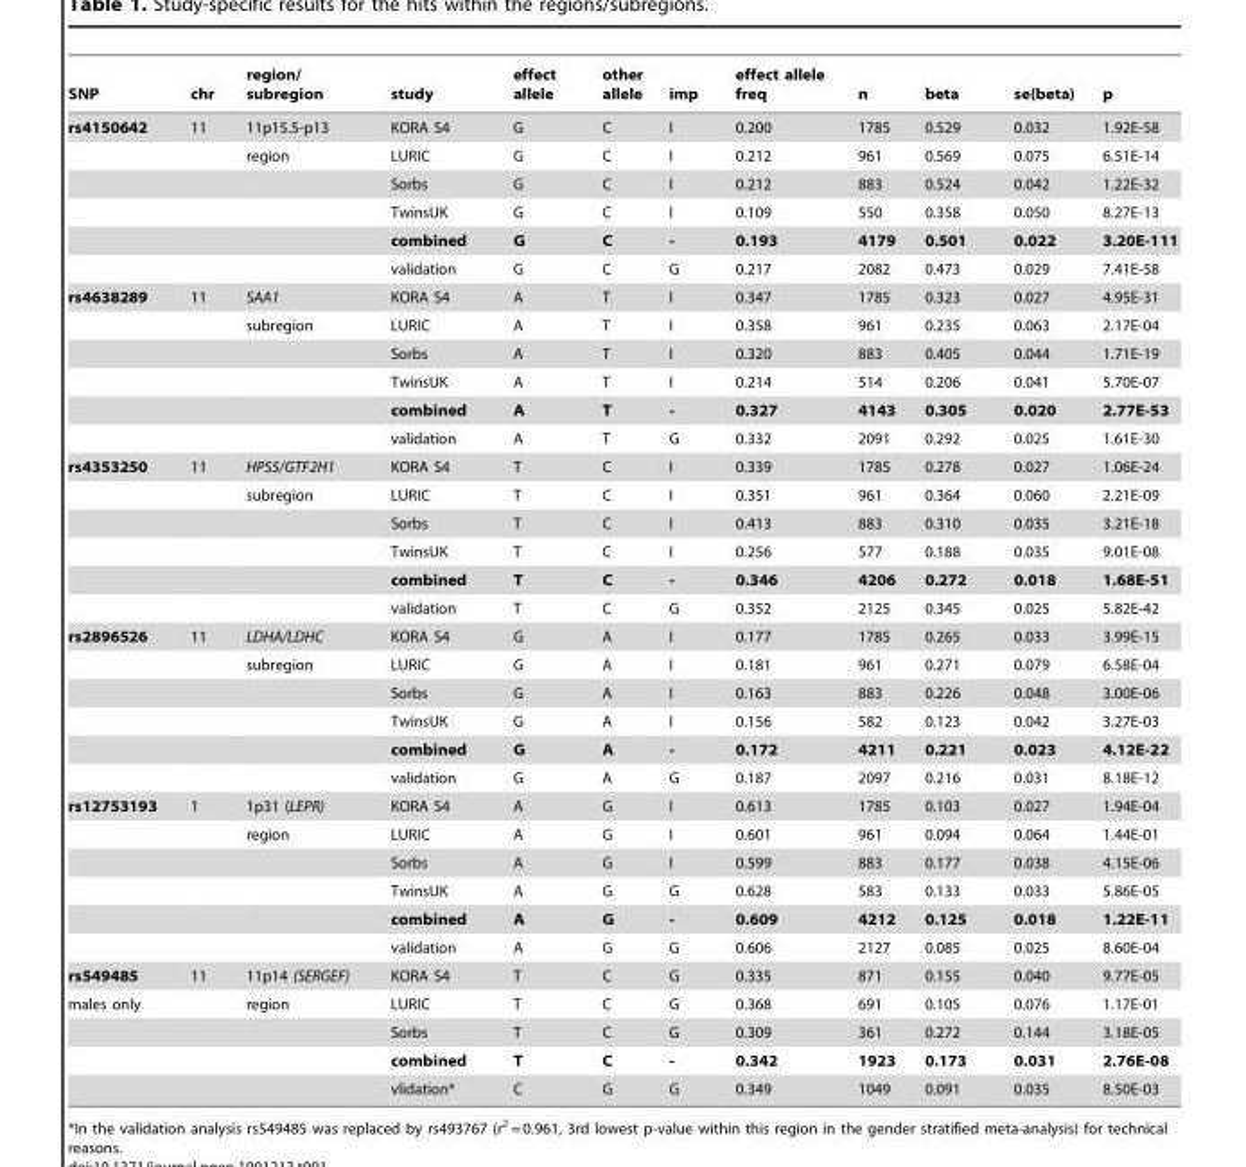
<table><thead><tr><td>SNP</td><td>chr</td><td>region/ subregion</td><td>study</td><td>effect allele</td><td>other allele</td><td>imp</td><td>effect allele freq</td><td>n</td><td>beta</td><td>se(beta)</td><td>p</td></tr></thead><tbody><tr><td rowspan="6">rs4150642</td><td>11</td><td>11p15.5-p13</td><td>KORA S4</td><td>G</td><td>C</td><td>I</td><td>0.200</td><td>1785</td><td>0.529</td><td>0.032</td><td>1.92E-58</td></tr><tr><td></td><td>region</td><td>LURIC</td><td>G</td><td>C</td><td>I</td><td>0.212</td><td>961</td><td>0.569</td><td>0.075</td><td>6.51E-14</td></tr><tr><td></td><td></td><td>Sorbs</td><td>G</td><td>C</td><td>I</td><td>0.212</td><td>883</td><td>0.524</td><td>0.042</td><td>1.22E-32</td></tr><tr><td></td><td></td><td>TwinsUK</td><td>G</td><td>C</td><td>I</td><td>0.109</td><td>550</td><td>0.358</td><td>0.050</td><td>8.27E-13</td></tr><tr><td></td><td></td><td>combined</td><td>G</td><td>C</td><td>-</td><td>0.193</td><td>4179</td><td>0.501</td><td>0.022</td><td>3.20E-111</td></tr><tr><td></td><td></td><td>validation</td><td>G</td><td>C</td><td>G</td><td>0.217</td><td>2082</td><td>0.473</td><td>0.029</td><td>7.41E-58</td></tr><tr><td rowspan="6">rs4638289</td><td>11</td><td>SAA1</td><td>KORA S4</td><td>A</td><td>T</td><td>I</td><td>0.347</td><td>1785</td><td>0.323</td><td>0.027</td><td>4.95E-31</td></tr><tr><td></td><td>subregion</td><td>LURIC</td><td>A</td><td>T</td><td>I</td><td>0.358</td><td>961</td><td>0.235</td><td>0.063</td><td>2.17E-04</td></tr><tr><td></td><td></td><td>Sorbs</td><td>A</td><td>T</td><td>I</td><td>0.320</td><td>883</td><td>0.405</td><td>0.044</td><td>1.71E-19</td></tr><tr><td></td><td></td><td>TwinsUK</td><td>A</td><td>T</td><td>I</td><td>0.214</td><td>514</td><td>0.206</td><td>0.041</td><td>5.70E-07</td></tr><tr><td></td><td></td><td>combined</td><td>A</td><td>T</td><td>-</td><td>0.327</td><td>4143</td><td>0.305</td><td>0.020</td><td>2.77E-53</td></tr><tr><td></td><td></td><td>validation</td><td>A</td><td>T</td><td>G</td><td>0.332</td><td>2091</td><td>0.292</td><td>0.025</td><td>1.61E-30</td></tr><tr><td rowspan="6">rs4353250</td><td>11</td><td>HPS5/GTF2H1</td><td>KORA S4</td><td>T</td><td>C</td><td>I</td><td>0.339</td><td>1785</td><td>0.278</td><td>0.027</td><td>1.06E-24</td></tr><tr><td></td><td>subregion</td><td>LURIC</td><td>T</td><td>C</td><td>I</td><td>0.351</td><td>961</td><td>0.364</td><td>0.060</td><td>2.21E-09</td></tr><tr><td></td><td></td><td>Sorbs</td><td>T</td><td>C</td><td>I</td><td>0.413</td><td>883</td><td>0.310</td><td>0.035</td><td>3.21E-18</td></tr><tr><td></td><td></td><td>TwinsUK</td><td>T</td><td>C</td><td>I</td><td>0.256</td><td>577</td><td>0.188</td><td>0.035</td><td>9.01E-08</td></tr><tr><td></td><td></td><td>combined</td><td>T</td><td>C</td><td>-</td><td>0.346</td><td>4206</td><td>0.272</td><td>0.018</td><td>1.68E-51</td></tr><tr><td></td><td></td><td>validation</td><td>T</td><td>C</td><td>G</td><td>0.352</td><td>2125</td><td>0.345</td><td>0.025</td><td>5.82E-42</td></tr><tr><td rowspan="6">rs2896526</td><td>11</td><td>LDHA/LDHC</td><td>KORA S4</td><td>G</td><td>A</td><td>I</td><td>0.177</td><td>1785</td><td>0.265</td><td>0.033</td><td>3.99E-15</td></tr><tr><td></td><td>subregion</td><td>LURIC</td><td>G</td><td>A</td><td>I</td><td>0.181</td><td>961</td><td>0.271</td><td>0.079</td><td>6.58E-04</td></tr><tr><td></td><td></td><td>Sorbs</td><td>G</td><td>A</td><td>I</td><td>0.163</td><td>883</td><td>0.226</td><td>0.048</td><td>3.00E-06</td></tr><tr><td></td><td></td><td>TwinsUK</td><td>G</td><td>A</td><td>I</td><td>0.156</td><td>582</td><td>0.123</td><td>0.042</td><td>3.27E-03</td></tr><tr><td></td><td></td><td>combined</td><td>G</td><td>A</td><td>-</td><td>0.172</td><td>4211</td><td>0.221</td><td>0.023</td><td>4.12E-22</td></tr><tr><td></td><td></td><td>validation</td><td>G</td><td>A</td><td>G</td><td>0.187</td><td>2097</td><td>0.216</td><td>0.031</td><td>8.18E-12</td></tr><tr><td rowspan="6">rs12753193</td><td>1</td><td>1p31 (LEPR)</td><td>KORA S4</td><td>A</td><td>G</td><td>I</td><td>0.613</td><td>1785</td><td>0.103</td><td>0.027</td><td>1.94E-04</td></tr><tr><td></td><td>region</td><td>LURIC</td><td>A</td><td>G</td><td>I</td><td>0.601</td><td>961</td><td>0.094</td><td>0.064</td><td>1.44E-01</td></tr><tr><td></td><td></td><td>Sorbs</td><td>A</td><td>G</td><td>I</td><td>0.599</td><td>883</td><td>0.177</td><td>0.038</td><td>4.15E-06</td></tr><tr><td></td><td></td><td>TwinsUK</td><td>A</td><td>G</td><td>G</td><td>0.628</td><td>583</td><td>0.133</td><td>0.033</td><td>5.86E-05</td></tr><tr><td></td><td></td><td>combined</td><td>A</td><td>G</td><td>-</td><td>0.609</td><td>4212</td><td>0.125</td><td>0.018</td><td>1.22E-11</td></tr><tr><td></td><td></td><td>validation</td><td>A</td><td>G</td><td>G</td><td>0.606</td><td>2127</td><td>0.085</td><td>0.025</td><td>8.60E-04</td></tr><tr><td>rs549485</td><td>11</td><td>11p14 (SERGEF)</td><td>KORA S4</td><td>T</td><td>C</td><td>G</td><td>0.335</td><td>871</td><td>0.155</td><td>0.040</td><td>9.77E-05</td></tr><tr><td rowspan="4">males only</td><td></td><td>region</td><td>LURIC</td><td>T</td><td>C</td><td>G</td><td>0.368</td><td>691</td><td>0.105</td><td>0.076</td><td>1.17E-01</td></tr><tr><td></td><td></td><td>Sorbs</td><td>T</td><td>C</td><td>G</td><td>0.309</td><td>361</td><td>0.272</td><td>0.144</td><td>3.18E-05</td></tr><tr><td></td><td></td><td>combined</td><td>T</td><td>C</td><td>-</td><td>0.342</td><td>1923</td><td>0.173</td><td>0.031</td><td>2.76E-08</td></tr><tr><td></td><td></td><td>vlidation*</td><td>C</td><td>G</td><td>G</td><td>0.349</td><td>1049</td><td>0.091</td><td>0.035</td><td>8.50E-03</td></tr></tbody></table>